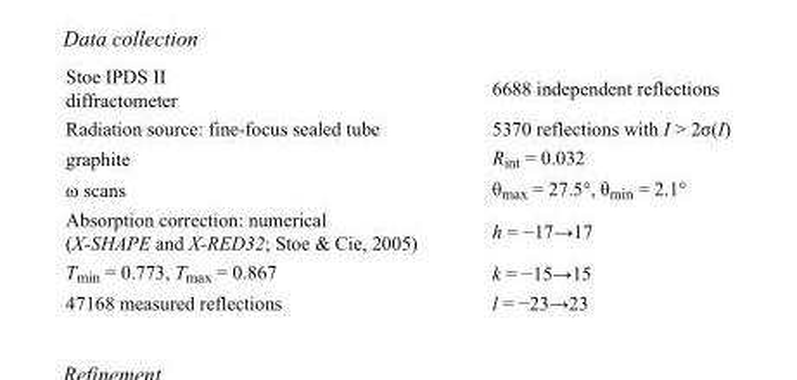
<table><tbody><tr><td>Stoe IPDS II diffractometer</td><td>6688 independent reflections</td></tr><tr><td>Radiation source: fine-focus sealed tube</td><td>5370 reflections with I &gt; 2σ(I)</td></tr><tr><td>graphite</td><td>R<sub>int</sub> = 0.032</td></tr><tr><td>ω scans</td><td>θ<sub>max</sub> = 27.5°, θ<sub>min</sub> = 2.1°</td></tr><tr><td>Absorption correction: numerical (X-SHAPE and X-RED32; Stoe &amp; Cie, 2005)</td><td>h = −17→17</td></tr><tr><td>T<sub>min</sub> = 0.773, T<sub>max</sub> = 0.867</td><td>k = −15→15</td></tr><tr><td>47168 measured reflections</td><td>l = −23→23</td></tr></tbody></table>